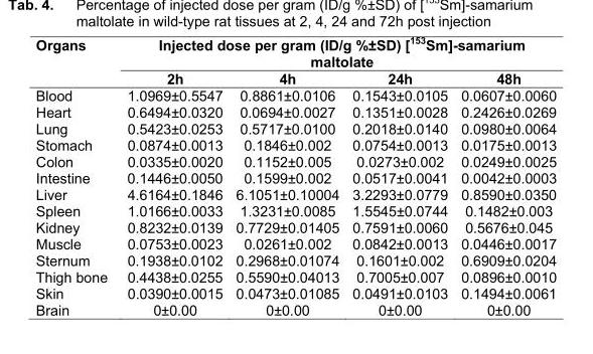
<table><thead><tr><td rowspan="2">Organs</td><td colspan="4">Injected dose per gram (ID/g %±SD) [<sup>153</sup>Sm]-samarium maltolate</td></tr><tr><td>2h</td><td>4h</td><td>24h</td><td>48h</td></tr></thead><tbody><tr><td>Blood</td><td>1.0969±0.5547</td><td>0.8861±0.0106</td><td>0.1543±0.0105</td><td>0.0607±0.0060</td></tr><tr><td>Heart</td><td>0.6494±0.0320</td><td>0.0694±0.0027</td><td>0.1351±0.0028</td><td>0.2426±0.0269</td></tr><tr><td>Lung</td><td>0.5423±0.0253</td><td>0.5717±0.0100</td><td>0.2018±0.0140</td><td>0.0980±0.0064</td></tr><tr><td>Stomach</td><td>0.0874±0.0013</td><td>0.1846±0.002</td><td>0.0754±0.0013</td><td>0.0175±0.0013</td></tr><tr><td>Colon</td><td>0.0335±0.0020</td><td>0.1152±0.005</td><td>0.0273±0.002</td><td>0.0249±0.0025</td></tr><tr><td>Intestine</td><td>0.1446±0.0050</td><td>0.1599±0.002</td><td>0.0517±0.0041</td><td>0.0042±0.0003</td></tr><tr><td>Liver</td><td>4.6164±0.1846</td><td>6.1051±0.10004</td><td>3.2293±0.0779</td><td>0.8590±0.0350</td></tr><tr><td>Spleen</td><td>1.0166±0.0033</td><td>1.3231±0.0085</td><td>1.5545±0.0744</td><td>0.1482±0.003</td></tr><tr><td>Kidney</td><td>0.8232±0.0139</td><td>0.7729±0.01405</td><td>0.7591±0.0060</td><td>0.5676±0.045</td></tr><tr><td>Muscle</td><td>0.0753±0.0023</td><td>0.0261±0.002</td><td>0.0842±0.0013</td><td>0.0446±0.0017</td></tr><tr><td>Sternum</td><td>0.1938±0.0102</td><td>0.2968±0.01074</td><td>0.1601±0.002</td><td>0.6909±0.0204</td></tr><tr><td>Thigh bone</td><td>0.4438±0.0255</td><td>0.5590±0.04013</td><td>0.7005±0.007</td><td>0.0896±0.0010</td></tr><tr><td>Skin</td><td>0.0390±0.0015</td><td>0.0473±0.01085</td><td>0.0491±0.0103</td><td>0.1494±0.0061</td></tr><tr><td>Brain</td><td>0±0.00</td><td>0±0.00</td><td>0±0.00</td><td>0±0.00</td></tr></tbody></table>